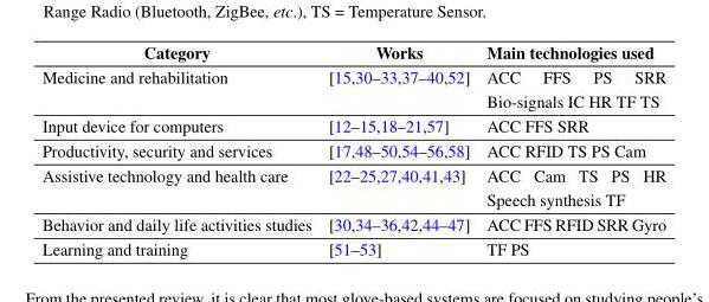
<table><thead><tr><td>Category</td><td>Works</td><td>Main technologies used</td></tr></thead><tbody><tr><td>Medicine and rehabilitation</td><td>[15,30–33,37–40,52]</td><td>ACC FFS PS SRR Bio-signals IC HR TF TS</td></tr><tr><td>Input device for computers</td><td>[12–15,18–21,57]</td><td>ACC FFS SRR</td></tr><tr><td>Productivity, security and services</td><td>[17,48–50,54–56,58]</td><td>ACC RFID TS PS Cam</td></tr><tr><td>Assistive technology and health care</td><td>[22–25,27,40,41,43]</td><td>ACC Cam TS PS HR Speech synthesis TF</td></tr><tr><td>Behavior and daily life activities studies</td><td>[30,34–36,42,44–47]</td><td>ACC FFS RFID SRR Gyro</td></tr><tr><td>Learning and training</td><td>[51–53]</td><td>TF PS</td></tr></tbody></table>